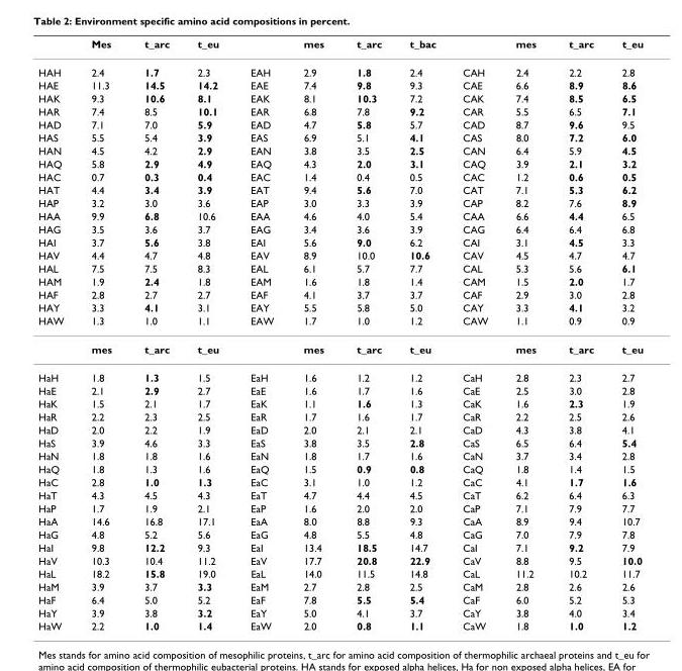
<table><thead><tr><td></td><td>Mes</td><td>t_arc</td><td>t_eu</td><td></td><td>mes</td><td>t_arc</td><td>t_bac</td><td></td><td>mes</td><td>t_arc</td><td>t_eu</td></tr></thead><tbody><tr><td>HAH</td><td>2.4</td><td>1.7</td><td>2.3</td><td>EAH</td><td>2.9</td><td>1.8</td><td>2.4</td><td>CAH</td><td>2.4</td><td>2.2</td><td>2.8</td></tr><tr><td>HAE</td><td>11.3</td><td>14.5</td><td>14.2</td><td>EAE</td><td>7.4</td><td>9.8</td><td>9.3</td><td>CAE</td><td>6.6</td><td>8.9</td><td>8.6</td></tr><tr><td>HAK</td><td>9.3</td><td>10.6</td><td>8.1</td><td>EAK</td><td>8.1</td><td>10.3</td><td>7.2</td><td>CAK</td><td>7.4</td><td>8.5</td><td>6.5</td></tr><tr><td>HAR</td><td>7.4</td><td>8.5</td><td>10.1</td><td>EAR</td><td>6.8</td><td>7.8</td><td>9.2</td><td>CAR</td><td>5.5</td><td>6.5</td><td>7.1</td></tr><tr><td>HAD</td><td>7.1</td><td>7.0</td><td>5.9</td><td>EAD</td><td>4.7</td><td>5.8</td><td>5.7</td><td>CAD</td><td>8.7</td><td>9.6</td><td>9.5</td></tr><tr><td>HAS</td><td>5.5</td><td>5.4</td><td>3.9</td><td>EAS</td><td>6.9</td><td>5.1</td><td>4.1</td><td>CAS</td><td>8.0</td><td>7.2</td><td>6.0</td></tr><tr><td>HAN</td><td>4.5</td><td>4.2</td><td>2.9</td><td>EAN</td><td>3.8</td><td>3.5</td><td>2.5</td><td>CAN</td><td>6.4</td><td>5.9</td><td>4.5</td></tr><tr><td>HAQ</td><td>5.8</td><td>2.9</td><td>4.9</td><td>EAQ</td><td>4.3</td><td>2.0</td><td>3.1</td><td>CAQ</td><td>3.9</td><td>2.1</td><td>3.2</td></tr><tr><td>HAC</td><td>0.7</td><td>0.3</td><td>0.4</td><td>EAC</td><td>1.4</td><td>0.4</td><td>0.5</td><td>CAC</td><td>1.2</td><td>0.6</td><td>0.5</td></tr><tr><td>HAT</td><td>4.4</td><td>3.4</td><td>3.9</td><td>EAT</td><td>9.4</td><td>5.6</td><td>7.0</td><td>CAT</td><td>7.1</td><td>5.3</td><td>6.2</td></tr><tr><td>HAP</td><td>3.2</td><td>3.0</td><td>3.6</td><td>EAP</td><td>3.0</td><td>3.3</td><td>3.9</td><td>CAP</td><td>8.2</td><td>7.6</td><td>8.9</td></tr><tr><td>HAA</td><td>9.9</td><td>6.8</td><td>10.6</td><td>EAA</td><td>4.6</td><td>4.0</td><td>5.4</td><td>CAA</td><td>6.6</td><td>4.4</td><td>6.5</td></tr><tr><td>HAG</td><td>3.5</td><td>3.6</td><td>3.7</td><td>EAG</td><td>3.4</td><td>3.6</td><td>3.9</td><td>CAG</td><td>6.4</td><td>6.4</td><td>6.8</td></tr><tr><td>HAI</td><td>3.7</td><td>5.6</td><td>3.8</td><td>EAI</td><td>5.6</td><td>9.0</td><td>6.2</td><td>CAI</td><td>3.1</td><td>4.5</td><td>3.3</td></tr><tr><td>HAV</td><td>4.4</td><td>4.7</td><td>4.8</td><td>EAV</td><td>8.9</td><td>10.0</td><td>10.6</td><td>CAV</td><td>4.5</td><td>4.7</td><td>4.7</td></tr><tr><td>HAL</td><td>7.5</td><td>7.5</td><td>8.3</td><td>EAL</td><td>6.1</td><td>5.7</td><td>7.7</td><td>CAL</td><td>5.3</td><td>5.6</td><td>6.1</td></tr><tr><td>HAM</td><td>1.9</td><td>2.4</td><td>1.8</td><td>EAM</td><td>1.6</td><td>1.8</td><td>1.4</td><td>CAM</td><td>1.5</td><td>2.0</td><td>1.7</td></tr><tr><td>HAF</td><td>2.8</td><td>2.7</td><td>2.7</td><td>EAF</td><td>4.1</td><td>3.7</td><td>3.7</td><td>CAF</td><td>2.9</td><td>3.0</td><td>2.8</td></tr><tr><td>HAY</td><td>3.3</td><td>4.1</td><td>3.1</td><td>EAY</td><td>5.5</td><td>5.8</td><td>5.0</td><td>CAY</td><td>3.3</td><td>4.1</td><td>3.2</td></tr><tr><td rowspan="2">HAW</td><td>1.3</td><td>1.0</td><td>1.1</td><td>EAW</td><td>1.7</td><td>1.0</td><td>1.2</td><td>CAW</td><td>1.1</td><td>0.9</td><td>0.9</td></tr><tr><td>mes</td><td>t_arc</td><td>t_eu</td><td></td><td>mes</td><td>t_arc</td><td>t_eu</td><td></td><td>mes</td><td>t_arc</td><td>t_eu</td></tr><tr><td>HaH</td><td>1.8</td><td>1.3</td><td>1.5</td><td>EaH</td><td>1.6</td><td>1.2</td><td>1.2</td><td>CaH</td><td>2.8</td><td>2.3</td><td>2.7</td></tr><tr><td>HaE</td><td>2.1</td><td>2.9</td><td>2.7</td><td>EaE</td><td>1.6</td><td>1.7</td><td>1.6</td><td>CaE</td><td>2.5</td><td>3.0</td><td>2.8</td></tr><tr><td>HaK</td><td>1.5</td><td>2.1</td><td>1.7</td><td>EaK</td><td>1.1</td><td>1.6</td><td>1.3</td><td>CaK</td><td>1.6</td><td>2.3</td><td>1.9</td></tr><tr><td>HaR</td><td>2.2</td><td>2.3</td><td>2.5</td><td>EaR</td><td>1.7</td><td>1.6</td><td>1.7</td><td>CaR</td><td>2.2</td><td>2.5</td><td>2.6</td></tr><tr><td>HaD</td><td>2.0</td><td>2.2</td><td>1.9</td><td>EaD</td><td>2.0</td><td>2.1</td><td>2.1</td><td>CaD</td><td>4.3</td><td>3.8</td><td>4.1</td></tr><tr><td>HaS</td><td>3.9</td><td>4.6</td><td>3.3</td><td>EaS</td><td>3.8</td><td>3.5</td><td>2.8</td><td>CaS</td><td>6.5</td><td>6.4</td><td>5.4</td></tr><tr><td>HaN</td><td>1.8</td><td>1.8</td><td>1.6</td><td>EaN</td><td>1.8</td><td>1.7</td><td>1.6</td><td>CaN</td><td>3.7</td><td>3.4</td><td>2.8</td></tr><tr><td>HaQ</td><td>1.8</td><td>1.3</td><td>1.6</td><td>EaQ</td><td>1.5</td><td>0.9</td><td>0.8</td><td>CaQ</td><td>1.8</td><td>1.4</td><td>1.5</td></tr><tr><td>HaC</td><td>2.8</td><td>1.0</td><td>1.3</td><td>EaC</td><td>3.1</td><td>1.0</td><td>1.2</td><td>CaC</td><td>4.1</td><td>1.7</td><td>1.6</td></tr><tr><td>HaT</td><td>4.3</td><td>4.5</td><td>4.3</td><td>EaT</td><td>4.7</td><td>4.4</td><td>4.5</td><td>CaT</td><td>6.2</td><td>6.4</td><td>6.3</td></tr><tr><td>HaP</td><td>1.7</td><td>1.9</td><td>2.1</td><td>EaP</td><td>1.6</td><td>2.0</td><td>2.0</td><td>CaP</td><td>7.1</td><td>7.9</td><td>7.7</td></tr><tr><td>HaA</td><td>14.6</td><td>16.8</td><td>17.1</td><td>EaA</td><td>8.0</td><td>8.8</td><td>9.3</td><td>CaA</td><td>8.9</td><td>9.4</td><td>10.7</td></tr><tr><td>HaG</td><td>4.8</td><td>5.2</td><td>5.6</td><td>EaG</td><td>4.8</td><td>5.5</td><td>4.8</td><td>CaG</td><td>7.0</td><td>7.9</td><td>7.8</td></tr><tr><td>HaI</td><td>9.8</td><td>12.2</td><td>9.3</td><td>EaI</td><td>13.4</td><td>18.5</td><td>14.7</td><td>CaI</td><td>7.1</td><td>9.2</td><td>7.9</td></tr><tr><td>HaV</td><td>10.3</td><td>10.4</td><td>11.2</td><td>EaV</td><td>17.7</td><td>20.8</td><td>22.9</td><td>CaV</td><td>8.8</td><td>9.5</td><td>10.0</td></tr><tr><td>HaL</td><td>18.2</td><td>15.8</td><td>19.0</td><td>EaL</td><td>14.0</td><td>11.5</td><td>14.8</td><td>CaL</td><td>11.2</td><td>10.2</td><td>11.7</td></tr><tr><td>HaM</td><td>3.9</td><td>3.7</td><td>3.3</td><td>EaM</td><td>2.7</td><td>2.8</td><td>2.5</td><td>CaM</td><td>2.8</td><td>2.6</td><td>2.6</td></tr><tr><td>HaF</td><td>6.4</td><td>5.0</td><td>5.2</td><td>EaF</td><td>7.8</td><td>5.5</td><td>5.4</td><td>CaF</td><td>6.0</td><td>5.2</td><td>5.3</td></tr><tr><td>HaY</td><td>3.9</td><td>3.8</td><td>3.2</td><td>EaY</td><td>5.0</td><td>4.1</td><td>3.7</td><td>CaY</td><td>3.8</td><td>4.0</td><td>3.4</td></tr><tr><td>HaW</td><td>2.2</td><td>1.0</td><td>1.4</td><td>EaW</td><td>2.0</td><td>0.8</td><td>1.1</td><td>CaW</td><td>1.8</td><td>1.0</td><td>1.2</td></tr></tbody></table>